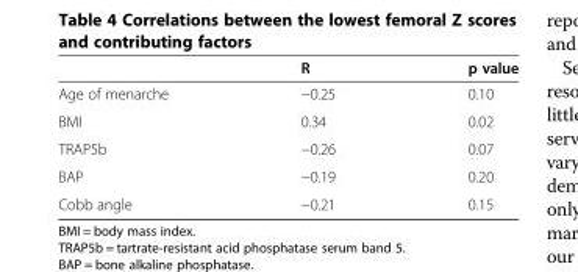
<table><thead><tr><td></td><td>R</td><td>p value</td></tr></thead><tbody><tr><td>Age of menarche</td><td>−0.25</td><td>0.10</td></tr><tr><td>BMI</td><td>0.34</td><td>0.02</td></tr><tr><td>TRAP5b</td><td>−0.26</td><td>0.07</td></tr><tr><td>BAP</td><td>−0.19</td><td>0.20</td></tr><tr><td>Cobb angle</td><td>−0.21</td><td>0.15</td></tr></tbody></table>